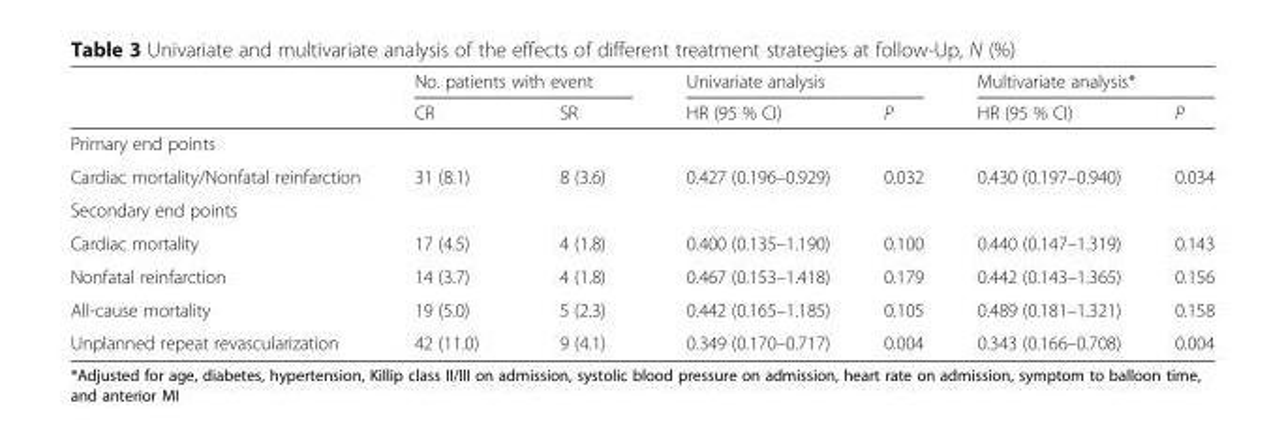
<table><thead><tr><td rowspan="2"></td><td colspan="2">No. patients with event</td><td colspan="2">Univariate analysis</td><td colspan="2">Multivariate analysis*</td></tr><tr><td>CR</td><td>SR</td><td>HR (95 % CI)</td><td>P</td><td>HR (95 % CI)</td><td>P</td></tr></thead><tbody><tr><td colspan="7">Primary end points</td></tr><tr><td>Cardiac mortality/Nonfatal reinfarction</td><td>31 (8.1)</td><td>8 (3.6)</td><td>0.427 (0.196–0.929)</td><td>0.032</td><td>0.430 (0.197–0.940)</td><td>0.034</td></tr><tr><td colspan="7">Secondary end points</td></tr><tr><td>Cardiac mortality</td><td>17 (4.5)</td><td>4 (1.8)</td><td>0.400 (0.135–1.190)</td><td>0.100</td><td>0.440 (0.147–1.319)</td><td>0.143</td></tr><tr><td>Nonfatal reinfarction</td><td>14 (3.7)</td><td>4 (1.8)</td><td>0.467 (0.153–1.418)</td><td>0.179</td><td>0.442 (0.143–1.365)</td><td>0.156</td></tr><tr><td>All-cause mortality</td><td>19 (5.0)</td><td>5 (2.3)</td><td>0.442 (0.165–1.185)</td><td>0.105</td><td>0.489 (0.181–1.321)</td><td>0.158</td></tr><tr><td>Unplanned repeat revascularization</td><td>42 (11.0)</td><td>9 (4.1)</td><td>0.349 (0.170–0.717)</td><td>0.004</td><td>0.343 (0.166–0.708)</td><td>0.004</td></tr></tbody></table>